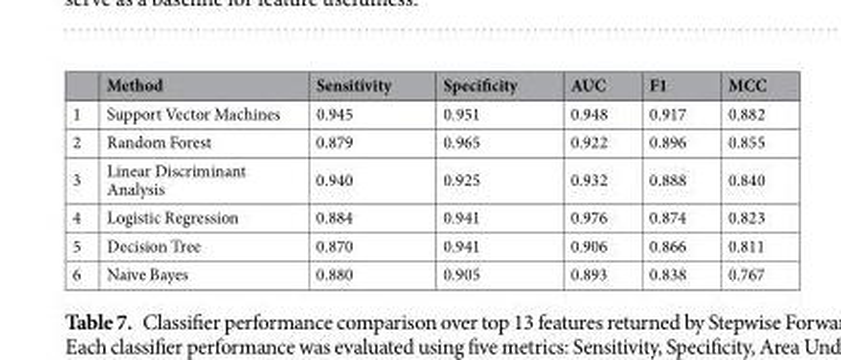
<table><thead><tr><td></td><td>Method</td><td>Sensitivity</td><td>Specificity</td><td>AUC</td><td>F1</td><td>MCC</td></tr></thead><tbody><tr><td>1</td><td>Support Vector Machines</td><td>0.945</td><td>0.951</td><td>0.948</td><td>0.917</td><td>0.882</td></tr><tr><td>2</td><td>Random Forest</td><td>0.879</td><td>0.965</td><td>0.922</td><td>0.896</td><td>0.855</td></tr><tr><td>3</td><td>Linear Discriminant Analysis</td><td>0.940</td><td>0.925</td><td>0.932</td><td>0.888</td><td>0.840</td></tr><tr><td>4</td><td>Logistic Regression</td><td>0.884</td><td>0.941</td><td>0.976</td><td>0.874</td><td>0.823</td></tr><tr><td>5</td><td>Decision Tree</td><td>0.870</td><td>0.941</td><td>0.906</td><td>0.866</td><td>0.811</td></tr><tr><td>6</td><td>Naive Bayes</td><td>0.880</td><td>0.905</td><td>0.893</td><td>0.838</td><td>0.767</td></tr></tbody></table>